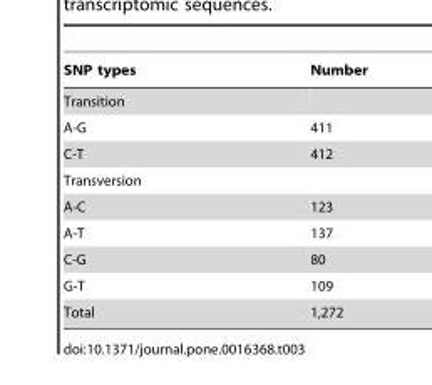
<table><thead><tr><td>SNP types</td><td>Number</td></tr></thead><tbody><tr><td colspan="2">Transition</td></tr><tr><td>A-G</td><td>411</td></tr><tr><td>C-T</td><td>412</td></tr><tr><td colspan="2">Transversion</td></tr><tr><td>A-C</td><td>123</td></tr><tr><td>A-T</td><td>137</td></tr><tr><td>C-G</td><td>80</td></tr><tr><td>G-T</td><td>109</td></tr><tr><td>Total</td><td>1,272</td></tr></tbody></table>